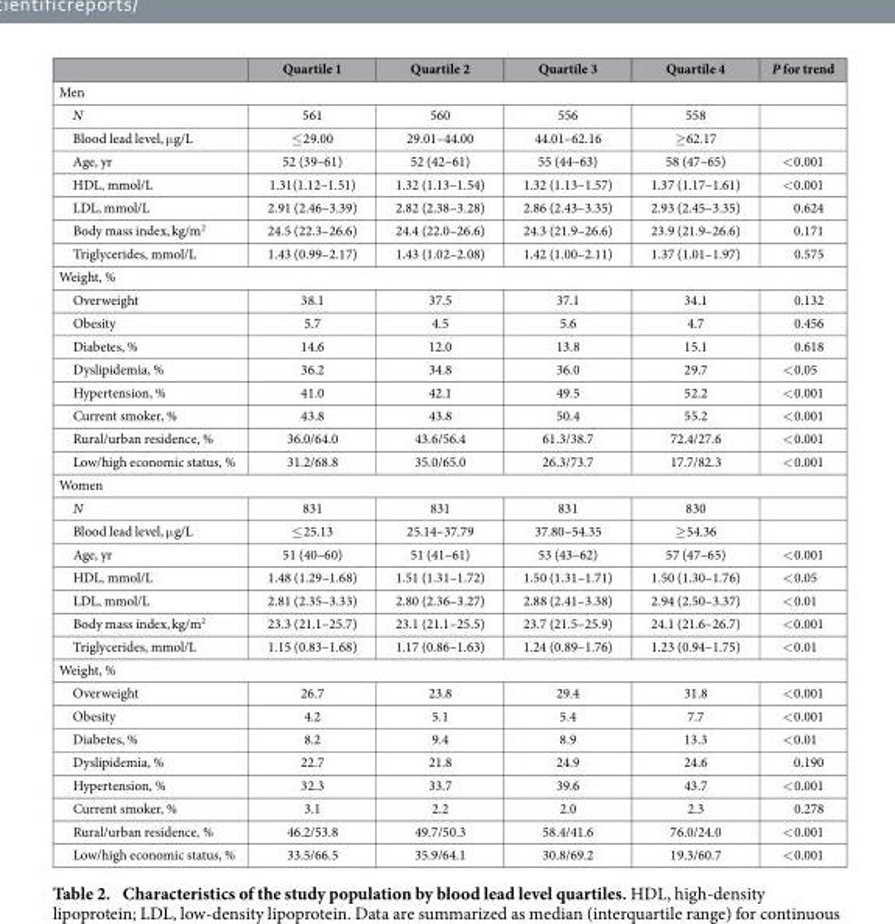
<table><thead><tr><td></td><td>Quartile 1</td><td>Quartile 2</td><td>Quartile 3</td><td>Quartile 4</td><td>P for trend</td></tr></thead><tbody><tr><td colspan="6">Men</td></tr><tr><td>N</td><td>561</td><td>560</td><td>556</td><td>558</td><td></td></tr><tr><td>Blood lead level, μ g/L</td><td>≤ 29.00</td><td>29.01–44.00</td><td>44.01–62.16</td><td>≥ 62.17</td><td></td></tr><tr><td>Age, yr</td><td>52 (39–61)</td><td>52 (42–61)</td><td>55 (44–63)</td><td>58 (47–65)</td><td>&lt; 0.001</td></tr><tr><td>HDL, mmol/L</td><td>1.31(1.12–1.51)</td><td>1.32 (1.13–1.54)</td><td>1.32 (1.13–1.57)</td><td>1.37 (1.17–1.61)</td><td>&lt; 0.001</td></tr><tr><td>LDL, mmol/L</td><td>2.91 (2.46–3.39)</td><td>2.82 (2.38–3.28)</td><td>2.86 (2.43–3.35)</td><td>2.93 (2.45–3.35)</td><td>0.624</td></tr><tr><td>Body mass index, kg/m<sup>2</sup></td><td>24.5 (22.3–26.6)</td><td>24.4 (22.0–26.6)</td><td>24.3 (21.9–26.6)</td><td>23.9 (21.9–26.6)</td><td>0.171</td></tr><tr><td>Triglycerides, mmol/L</td><td>1.43 (0.99–2.17)</td><td>1.43 (1.02–2.08)</td><td>1.42 (1.00–2.11)</td><td>1.37 (1.01–1.97)</td><td>0.575</td></tr><tr><td colspan="6">Weight, %</td></tr><tr><td>Overweight</td><td>38.1</td><td>37.5</td><td>37.1</td><td>34.1</td><td>0.132</td></tr><tr><td>Obesity</td><td>5.7</td><td>4.5</td><td>5.6</td><td>4.7</td><td>0.456</td></tr><tr><td>Diabetes, %</td><td>14.6</td><td>12.0</td><td>13.8</td><td>15.1</td><td>0.618</td></tr><tr><td>Dyslipidemia, %</td><td>36.2</td><td>34.8</td><td>36.0</td><td>29.7</td><td>&lt; 0.05</td></tr><tr><td>Hypertension, %</td><td>41.0</td><td>42.1</td><td>49.5</td><td>52.2</td><td>&lt; 0.001</td></tr><tr><td>Current smoker, %</td><td>43.8</td><td>43.8</td><td>50.4</td><td>55.2</td><td>&lt; 0.001</td></tr><tr><td>Rural/urban residence, %</td><td>36.0/64.0</td><td>43.6/56.4</td><td>61.3/38.7</td><td>72.4/27.6</td><td>&lt; 0.001</td></tr><tr><td>Low/high economic status, %</td><td>31.2/68.8</td><td>35.0/65.0</td><td>26.3/73.7</td><td>17.7/82.3</td><td>&lt; 0.001</td></tr><tr><td colspan="6">Women</td></tr><tr><td>N</td><td>831</td><td>831</td><td>831</td><td>830</td><td></td></tr><tr><td>Blood lead level, μ g/L</td><td>≤ 25.13</td><td>25.14–37.79</td><td>37.80–54.35</td><td>≥ 54.36</td><td></td></tr><tr><td>Age, yr</td><td>51 (40–60)</td><td>51 (41–61)</td><td>53 (43–62)</td><td>57 (47–65)</td><td>&lt; 0.001</td></tr><tr><td>HDL, mmol/L</td><td>1.48 (1.29–1.68)</td><td>1.51 (1.31–1.72)</td><td>1.50 (1.31–1.71)</td><td>1.50 (1.30–1.76)</td><td>&lt; 0.05</td></tr><tr><td>LDL, mmol/L</td><td>2.81 (2.35–3.33)</td><td>2.80 (2.36–3.27)</td><td>2.88 (2.41–3.38)</td><td>2.94 (2.50–3.37)</td><td>&lt; 0.01</td></tr><tr><td>Body mass index, kg/m<sup>2</sup></td><td>23.3 (21.1–25.7)</td><td>23.1 (21.1–25.5)</td><td>23.7 (21.5–25.9)</td><td>24.1 (21.6–26.7)</td><td>&lt; 0.001</td></tr><tr><td>Triglycerides, mmol/L</td><td>1.15 (0.83–1.68)</td><td>1.17 (0.86–1.63)</td><td>1.24 (0.89–1.76)</td><td>1.23 (0.94–1.75)</td><td>&lt; 0.01</td></tr><tr><td colspan="6">Weight, %</td></tr><tr><td>Overweight</td><td>26.7</td><td>23.8</td><td>29.4</td><td>31.8</td><td>&lt; 0.001</td></tr><tr><td>Obesity</td><td>4.2</td><td>5.1</td><td>5.4</td><td>7.7</td><td>&lt; 0.001</td></tr><tr><td>Diabetes, %</td><td>8.2</td><td>9.4</td><td>8.9</td><td>13.3</td><td>&lt; 0.01</td></tr><tr><td>Dyslipidemia, %</td><td>22.7</td><td>21.8</td><td>24.9</td><td>24.6</td><td>0.190</td></tr><tr><td>Hypertension, %</td><td>32.3</td><td>33.7</td><td>39.6</td><td>43.7</td><td>&lt; 0.001</td></tr><tr><td>Current smoker, %</td><td>3.1</td><td>2.2</td><td>2.0</td><td>2.3</td><td>0.278</td></tr><tr><td>Rural/urban residence, %</td><td>46.2/53.8</td><td>49.7/50.3</td><td>58.4/41.6</td><td>76.0/24.0</td><td>&lt; 0.001</td></tr><tr><td>Low/high economic status, %</td><td>33.5/66.5</td><td>35.9/64.1</td><td>30.8/69.2</td><td>19.3/60.7</td><td>&lt; 0.001</td></tr></tbody></table>